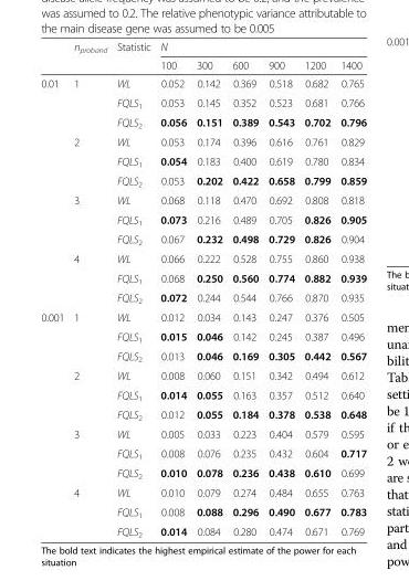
<table><thead><tr><td rowspan="2"></td><td rowspan="2">n<sub>proband</sub></td><td rowspan="2">Statistic</td><td colspan="6">N</td></tr><tr><td>100</td><td>300</td><td>600</td><td>900</td><td>1200</td><td>1400</td></tr></thead><tbody><tr><td rowspan="12">0.01</td><td rowspan="3">1</td><td>WL</td><td>0.052</td><td>0.142</td><td>0.369</td><td>0.518</td><td>0.682</td><td>0.765</td></tr><tr><td>FQLS<sub>1</sub></td><td>0.053</td><td>0.145</td><td>0.352</td><td>0.523</td><td>0.681</td><td>0.766</td></tr><tr><td>FQLS<sub>2</sub></td><td>0.056</td><td>0.151</td><td>0.389</td><td>0.543</td><td>0.702</td><td>0.796</td></tr><tr><td rowspan="3">2</td><td>WL</td><td>0.053</td><td>0.174</td><td>0.396</td><td>0.616</td><td>0.761</td><td>0.829</td></tr><tr><td>FQLS<sub>1</sub></td><td>0.054</td><td>0.183</td><td>0.400</td><td>0.619</td><td>0.780</td><td>0.834</td></tr><tr><td>FQLS<sub>2</sub></td><td>0.053</td><td>0.202</td><td>0.422</td><td>0.658</td><td>0.799</td><td>0.859</td></tr><tr><td rowspan="3">3</td><td>WL</td><td>0.068</td><td>0.118</td><td>0.470</td><td>0.692</td><td>0.808</td><td>0.818</td></tr><tr><td>FQLS<sub>1</sub></td><td>0.073</td><td>0.216</td><td>0.489</td><td>0.705</td><td>0.826</td><td>0.905</td></tr><tr><td>FQLS<sub>2</sub></td><td>0.067</td><td>0.232</td><td>0.498</td><td>0.729</td><td>0.826</td><td>0.904</td></tr><tr><td rowspan="3">4</td><td>WL</td><td>0.066</td><td>0.222</td><td>0.528</td><td>0.755</td><td>0.860</td><td>0.938</td></tr><tr><td>FQLS<sub>1</sub></td><td>0.068</td><td>0.250</td><td>0.560</td><td>0.774</td><td>0.882</td><td>0.939</td></tr><tr><td>FQLS<sub>2</sub></td><td>0.072</td><td>0.244</td><td>0.544</td><td>0.766</td><td>0.870</td><td>0.935</td></tr><tr><td rowspan="12">0.001</td><td rowspan="3">1</td><td>WL</td><td>0.012</td><td>0.034</td><td>0.143</td><td>0.247</td><td>0.376</td><td>0.505</td></tr><tr><td>FQLS<sub>1</sub></td><td>0.015</td><td>0.046</td><td>0.142</td><td>0.245</td><td>0.387</td><td>0.496</td></tr><tr><td>FQLS<sub>2</sub></td><td>0.013</td><td>0.046</td><td>0.169</td><td>0.305</td><td>0.442</td><td>0.567</td></tr><tr><td rowspan="3">2</td><td>WL</td><td>0.008</td><td>0.060</td><td>0.151</td><td>0.342</td><td>0.494</td><td>0.612</td></tr><tr><td>FQLS<sub>1</sub></td><td>0.014</td><td>0.055</td><td>0.163</td><td>0.357</td><td>0.512</td><td>0.640</td></tr><tr><td>FQLS<sub>2</sub></td><td>0.012</td><td>0.055</td><td>0.184</td><td>0.378</td><td>0.538</td><td>0.648</td></tr><tr><td rowspan="3">3</td><td>WL</td><td>0.005</td><td>0.033</td><td>0.223</td><td>0.404</td><td>0.579</td><td>0.595</td></tr><tr><td>FQLS<sub>1</sub></td><td>0.008</td><td>0.076</td><td>0.235</td><td>0.432</td><td>0.604</td><td>0.717</td></tr><tr><td>FQLS<sub>2</sub></td><td>0.010</td><td>0.078</td><td>0.236</td><td>0.438</td><td>0.610</td><td>0.699</td></tr><tr><td rowspan="3">4</td><td>WL</td><td>0.010</td><td>0.079</td><td>0.274</td><td>0.484</td><td>0.655</td><td>0.763</td></tr><tr><td>FQLS<sub>1</sub></td><td>0.008</td><td>0.088</td><td>0.296</td><td>0.490</td><td>0.677</td><td>0.783</td></tr><tr><td>FQLS<sub>2</sub></td><td>0.014</td><td>0.084</td><td>0.280</td><td>0.474</td><td>0.671</td><td>0.769</td></tr></tbody></table>